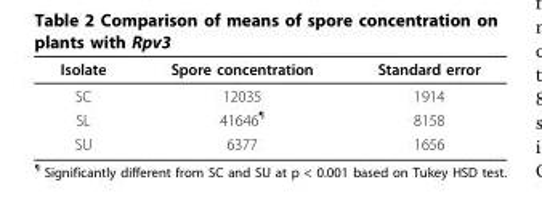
<table><thead><tr><td>Isolate</td><td>Spore concentration</td><td>Standard error</td></tr></thead><tbody><tr><td>SC</td><td>12035</td><td>1914</td></tr><tr><td>SL</td><td>41646<sup>¶</sup></td><td>8158</td></tr><tr><td>SU</td><td>6377</td><td>1656</td></tr></tbody></table>